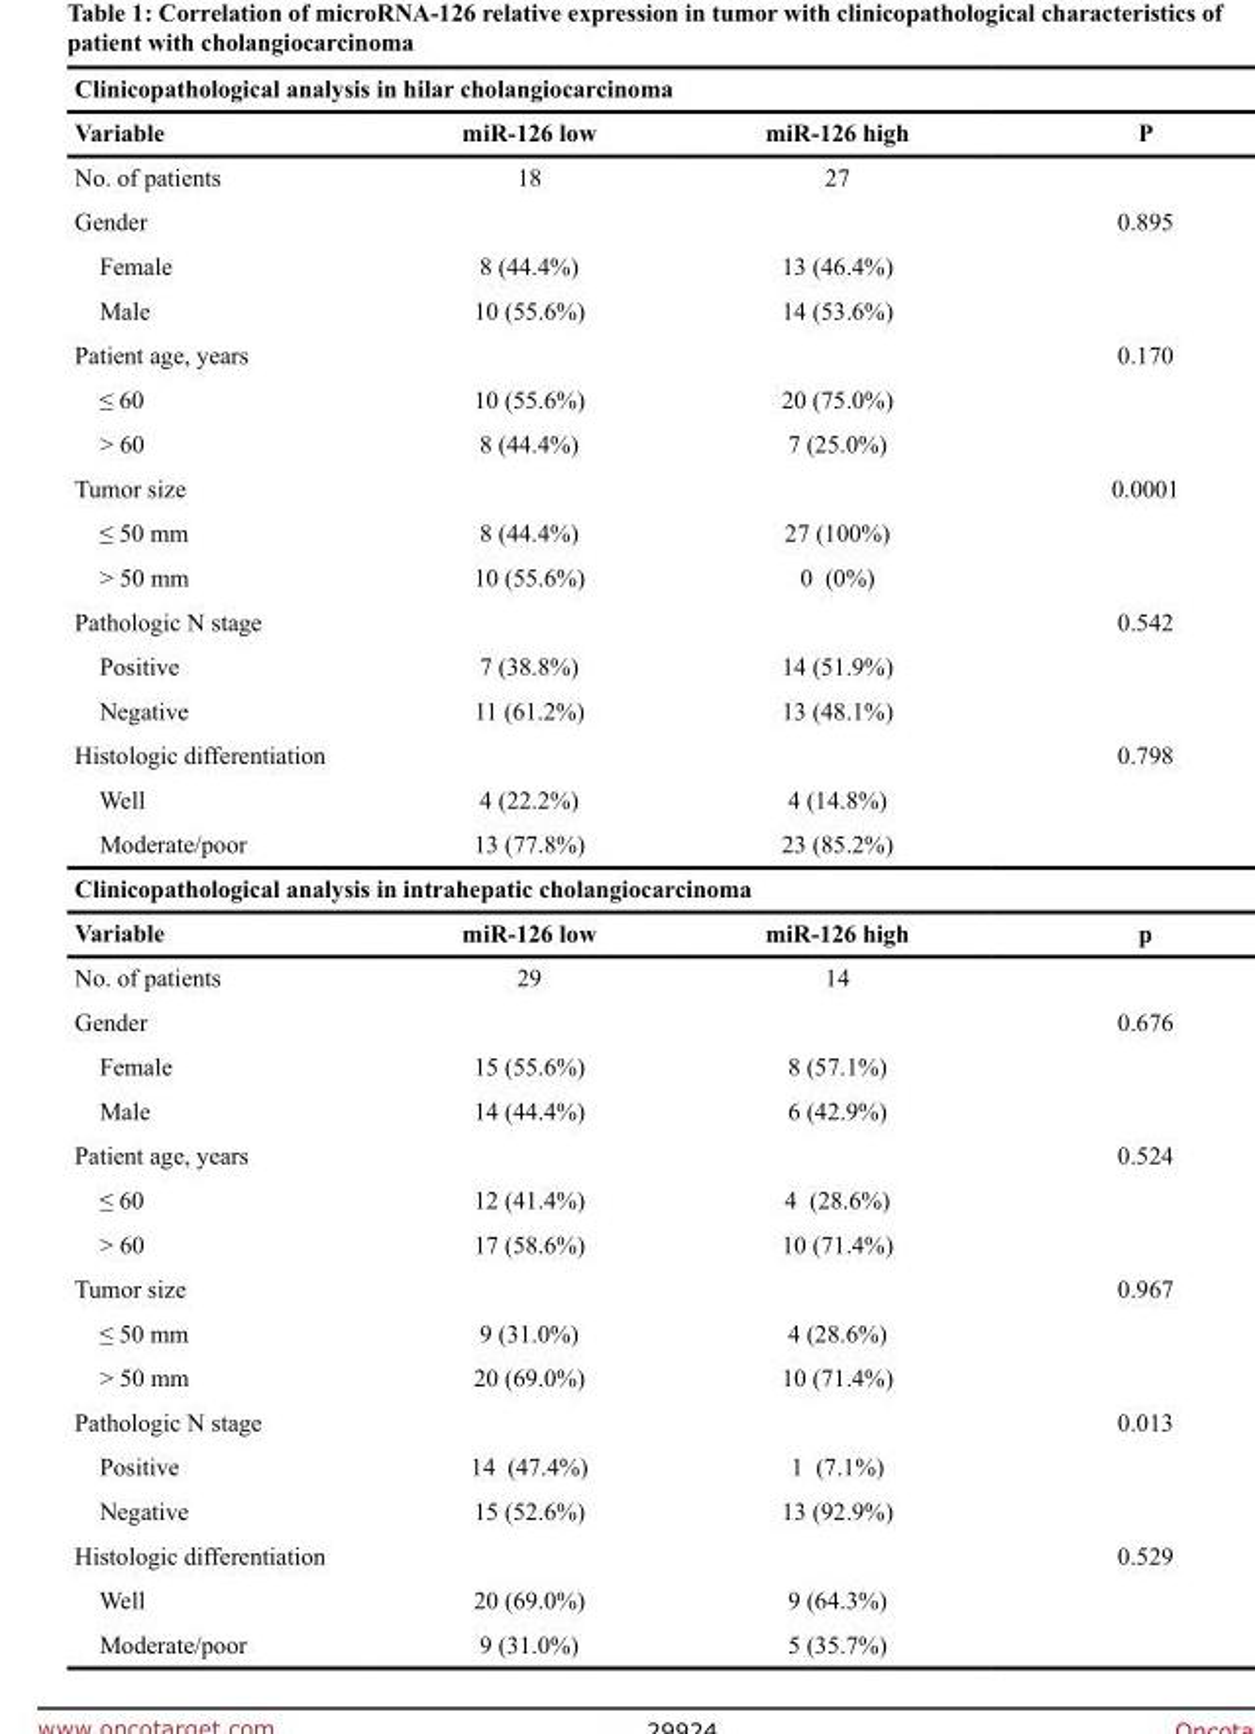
<table><thead><tr><td colspan="4">Clinicopathological analysis in hilar cholangiocarcinoma</td></tr><tr><td>Variable</td><td>miR-126 low</td><td>miR-126 high</td><td>P</td></tr></thead><tbody><tr><td>No. of patients</td><td>18</td><td>27</td><td></td></tr><tr><td>Gender</td><td></td><td></td><td>0.895</td></tr><tr><td>Female</td><td>8 (44.4%)</td><td>13 (46.4%)</td><td></td></tr><tr><td>Male</td><td>10 (55.6%)</td><td>14 (53.6%)</td><td></td></tr><tr><td>Patient age, years</td><td></td><td></td><td>0.170</td></tr><tr><td>≤ 60</td><td>10 (55.6%)</td><td>20 (75.0%)</td><td></td></tr><tr><td>&gt; 60</td><td>8 (44.4%)</td><td>7 (25.0%)</td><td></td></tr><tr><td>Tumor size</td><td></td><td></td><td>0.0001</td></tr><tr><td>≤ 50 mm</td><td>8 (44.4%)</td><td>27 (100%)</td><td></td></tr><tr><td>&gt; 50 mm</td><td>10 (55.6%)</td><td>0 (0%)</td><td></td></tr><tr><td>Pathologic N stage</td><td></td><td></td><td>0.542</td></tr><tr><td>Positive</td><td>7 (38.8%)</td><td>14 (51.9%)</td><td></td></tr><tr><td>Negative</td><td>11 (61.2%)</td><td>13 (48.1%)</td><td></td></tr><tr><td>Histologic differentiation</td><td></td><td></td><td>0.798</td></tr><tr><td>Well</td><td>4 (22.2%)</td><td>4 (14.8%)</td><td></td></tr><tr><td>Moderate/poor</td><td>13 (77.8%)</td><td>23 (85.2%)</td><td></td></tr><tr><td colspan="4">Clinicopathological analysis in intrahepatic cholangiocarcinoma</td></tr><tr><td>Variable</td><td>miR-126 low</td><td>miR-126 high</td><td>p</td></tr><tr><td>No. of patients</td><td>29</td><td>14</td><td></td></tr><tr><td>Gender</td><td></td><td></td><td>0.676</td></tr><tr><td>Female</td><td>15 (55.6%)</td><td>8 (57.1%)</td><td></td></tr><tr><td>Male</td><td>14 (44.4%)</td><td>6 (42.9%)</td><td></td></tr><tr><td>Patient age, years</td><td></td><td></td><td>0.524</td></tr><tr><td>≤ 60</td><td>12 (41.4%)</td><td>4 (28.6%)</td><td></td></tr><tr><td>&gt; 60</td><td>17 (58.6%)</td><td>10 (71.4%)</td><td></td></tr><tr><td>Tumor size</td><td></td><td></td><td>0.967</td></tr><tr><td>≤ 50 mm</td><td>9 (31.0%)</td><td>4 (28.6%)</td><td></td></tr><tr><td>&gt; 50 mm</td><td>20 (69.0%)</td><td>10 (71.4%)</td><td></td></tr><tr><td>Pathologic N stage</td><td></td><td></td><td>0.013</td></tr><tr><td>Positive</td><td>14 (47.4%)</td><td>1 (7.1%)</td><td></td></tr><tr><td>Negative</td><td>15 (52.6%)</td><td>13 (92.9%)</td><td></td></tr><tr><td>Histologic differentiation</td><td></td><td></td><td>0.529</td></tr><tr><td>Well</td><td>20 (69.0%)</td><td>9 (64.3%)</td><td></td></tr><tr><td>Moderate/poor</td><td>9 (31.0%)</td><td>5 (35.7%)</td><td></td></tr></tbody></table>